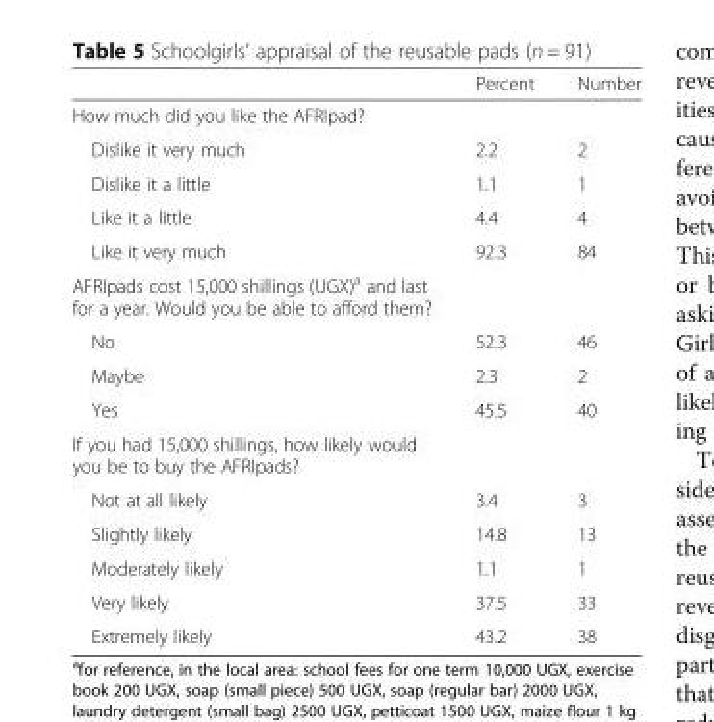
<table><thead><tr><td></td><td>Percent</td><td>Number</td></tr></thead><tbody><tr><td colspan="3">How much did you like the AFRIpad?</td></tr><tr><td>Dislike it very much</td><td>2.2</td><td>2</td></tr><tr><td>Dislike it a little</td><td>1.1</td><td>1</td></tr><tr><td>Like it a little</td><td>4.4</td><td>4</td></tr><tr><td>Like it very much</td><td>92.3</td><td>84</td></tr><tr><td colspan="3">AFRIpads cost 15,000 shillings (UGX)<sup>a</sup> and last for a year. Would you be able to afford them?</td></tr><tr><td>No</td><td>52.3</td><td>46</td></tr><tr><td>Maybe</td><td>2.3</td><td>2</td></tr><tr><td>Yes</td><td>45.5</td><td>40</td></tr><tr><td colspan="3">If you had 15,000 shillings, how likely would you be to buy the AFRIpads?</td></tr><tr><td>Not at all likely</td><td>3.4</td><td>3</td></tr><tr><td>Slightly likely</td><td>14.8</td><td>13</td></tr><tr><td>Moderately likely</td><td>1.1</td><td>1</td></tr><tr><td>Very likely</td><td>37.5</td><td>33</td></tr><tr><td>Extremely likely</td><td>43.2</td><td>38</td></tr></tbody></table>